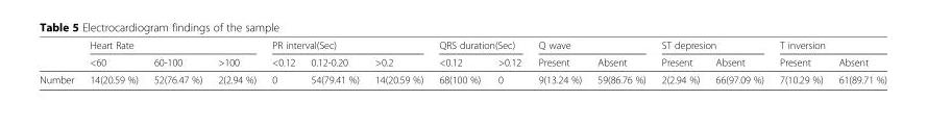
<table><thead><tr><td rowspan="2"></td><td colspan="3">Heart Rate</td><td colspan="3">PR interval(Sec)</td><td colspan="2">QRS duration(Sec)</td><td colspan="2">Q wave</td><td colspan="2">ST depresion</td><td colspan="2">T inversion</td></tr><tr><td>&lt;60</td><td>60-100</td><td>&gt;100</td><td>&lt;0.12</td><td>0.12-0.20</td><td>&gt;0.2</td><td>&lt;0.12</td><td>&gt;0.12</td><td>Present</td><td>Absent</td><td>Present</td><td>Absent</td><td>Present</td><td>Absent</td></tr></thead><tbody><tr><td>Number</td><td>14(20.59 %)</td><td>52(76.47 %)</td><td>2(2.94 %)</td><td>0</td><td>54(79.41 %)</td><td>14(20.59 %)</td><td>68(100 %)</td><td>0</td><td>9(13.24 %)</td><td>59(86.76 %)</td><td>2(2.94 %)</td><td>66(97.09 %)</td><td>7(10.29 %)</td><td>61(89.71 %)</td></tr></tbody></table>